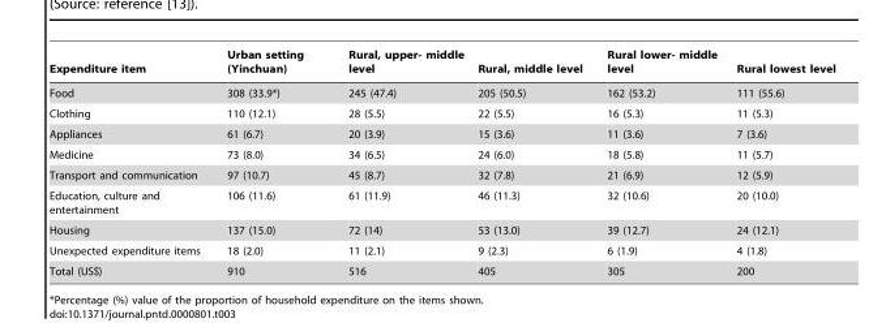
<table><thead><tr><td>Expenditure item</td><td>Urban setting (Yinchuan)</td><td>Rural, upper- middle level</td><td>Rural, middle level</td><td>Rural lower- middle level</td><td>Rural lowest level</td></tr></thead><tbody><tr><td>Food</td><td>308 (33.9*)</td><td>245 (47.4)</td><td>205 (50.5)</td><td>162 (53.2)</td><td>111 (55.6)</td></tr><tr><td>Clothing</td><td>110 (12.1)</td><td>28 (5.5)</td><td>22 (5.5)</td><td>16 (5.3)</td><td>11 (5.3)</td></tr><tr><td>Appliances</td><td>61 (6.7)</td><td>20 (3.9)</td><td>15 (3.6)</td><td>11 (3.6)</td><td>7 (3.6)</td></tr><tr><td>Medicine</td><td>73 (8.0)</td><td>34 (6.5)</td><td>24 (6.0)</td><td>18 (5.8)</td><td>11 (5.7)</td></tr><tr><td>Transport and communication</td><td>97 (10.7)</td><td>45 (8.7)</td><td>32 (7.8)</td><td>21 (6.9)</td><td>12 (5.9)</td></tr><tr><td>Education, culture and entertainment</td><td>106 (11.6)</td><td>61 (11.9)</td><td>46 (11.3)</td><td>32 (10.6)</td><td>20 (10.0)</td></tr><tr><td>Housing</td><td>137 (15.0)</td><td>72 (14)</td><td>53 (13.0)</td><td>39 (12.7)</td><td>24 (12.1)</td></tr><tr><td>Unexpected expenditure items</td><td>18 (2.0)</td><td>11 (2.1)</td><td>9 (2.3)</td><td>6 (1.9)</td><td>4 (1.8)</td></tr><tr><td>Total (US$)</td><td>910</td><td>516</td><td>405</td><td>305</td><td>200</td></tr></tbody></table>